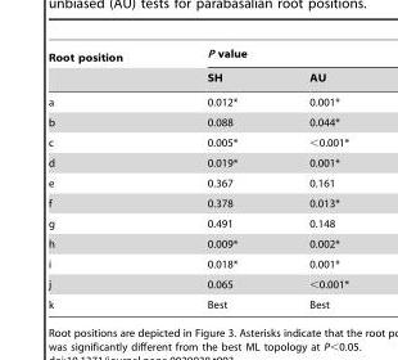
<table><thead><tr><td rowspan="2">Root position</td><td colspan="2">P value</td></tr><tr><td>SH</td><td>AU</td></tr></thead><tbody><tr><td>a</td><td>0.012*</td><td>0.001*</td></tr><tr><td>b</td><td>0.088</td><td>0.044*</td></tr><tr><td>c</td><td>0.005*</td><td>&lt;0.001*</td></tr><tr><td>d</td><td>0.019*</td><td>0.001*</td></tr><tr><td>e</td><td>0.367</td><td>0.161</td></tr><tr><td>f</td><td>0.378</td><td>0.013*</td></tr><tr><td>g</td><td>0.491</td><td>0.148</td></tr><tr><td>h</td><td>0.009*</td><td>0.002*</td></tr><tr><td>i</td><td>0.018*</td><td>0.001*</td></tr><tr><td>j</td><td>0.065</td><td>&lt;0.001*</td></tr><tr><td>k</td><td>Best</td><td>Best</td></tr></tbody></table>